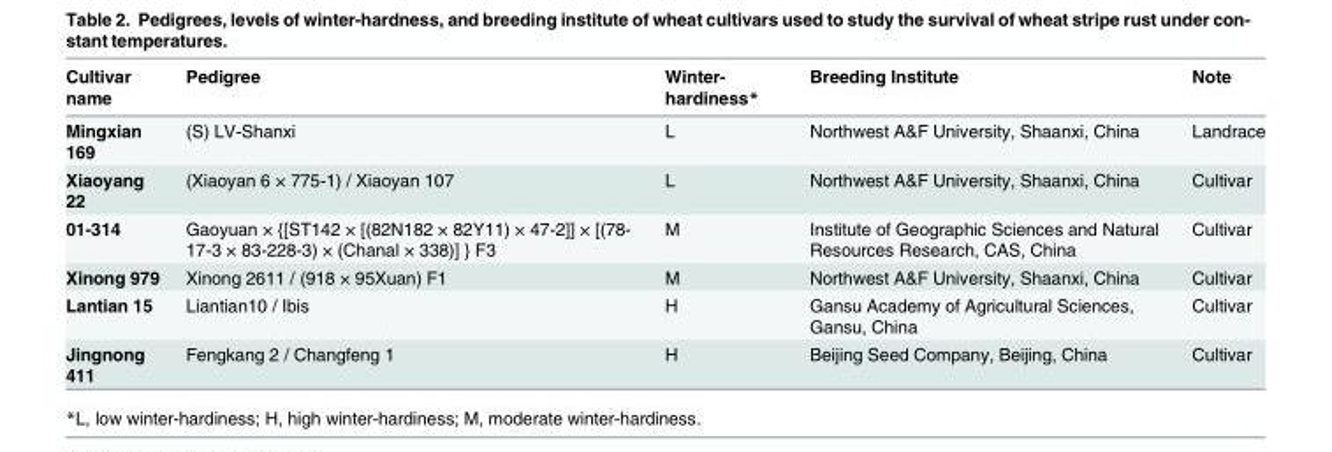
<table><thead><tr><td>Cultivar name</td><td>Pedigree</td><td>Winter- hardiness*</td><td>Breeding Institute</td><td>Note</td></tr></thead><tbody><tr><td>Mingxian 169</td><td>(S) LV-Shanxi</td><td>L</td><td>Northwest A&amp;F University, Shaanxi, China</td><td>Landrace</td></tr><tr><td>Xiaoyang 22</td><td>(Xiaoyan 6 × 775-1) / Xiaoyan 107</td><td>L</td><td>Northwest A&amp;F University, Shaanxi, China</td><td>Cultivar</td></tr><tr><td>01-314</td><td>Gaoyuan × {[ST142 × [(82N182 × 82Y11) × 47-2]] × [(78- 17-3 × 83-228-3) × (Chanal × 338)] } F3</td><td>M</td><td>Institute of Geographic Sciences and Natural Resources Research, CAS, China</td><td>Cultivar</td></tr><tr><td>Xinong 979</td><td>Xinong 2611 / (918 × 95Xuan) F1</td><td>M</td><td>Northwest A&amp;F University, Shaanxi, China</td><td>Cultivar</td></tr><tr><td>Lantian 15</td><td>Liantian10 / Ibis</td><td>H</td><td>Gansu Academy of Agricultural Sciences, Gansu, China</td><td>Cultivar</td></tr><tr><td>Jingnong 411</td><td>Fengkang 2 / Changfeng 1</td><td>H</td><td>Beijing Seed Company, Beijing, China</td><td>Cultivar</td></tr></tbody></table>